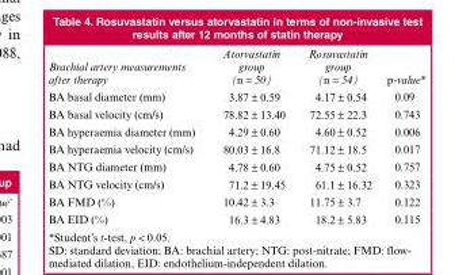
<table><thead><tr><td>Brachial artery measurements after therapy</td><td>Atorvastatin group (n = 50)</td><td>Rosuvastatin group (n = 54)</td><td>p-value*</td></tr></thead><tbody><tr><td>BA basal diameter (mm)</td><td>3.87 ± 0.59</td><td>4.17 ± 0.54</td><td>0.09</td></tr><tr><td>BA basal velocity (cm/s)</td><td>78.82 ± 13.40</td><td>72.55 ± 22.3</td><td>0.743</td></tr><tr><td>BA hyperaemia diameter (mm)</td><td>4.29 ± 0.60</td><td>4.60 ± 0.52</td><td>0.006</td></tr><tr><td>BA hyperaemia velocity (cm/s)</td><td>80.03 ± 16.8</td><td>71.12 ± 18.5</td><td>0.017</td></tr><tr><td>BA NTG diameter (mm)</td><td>4.78 ± 0.60</td><td>4.75 ± 0.52</td><td>0.757</td></tr><tr><td>BA NTG velocity (cm/s)</td><td>71.2 ± 19.45</td><td>61.1 ± 16.32</td><td>0.323</td></tr><tr><td>BA FMD (%)</td><td>10.42 ± 3.3</td><td>11.75 ± 3.7</td><td>0.122</td></tr><tr><td>BA EID (%)</td><td>16.3 ± 4.83</td><td>18.2 ± 5.83</td><td>0.115</td></tr></tbody></table>